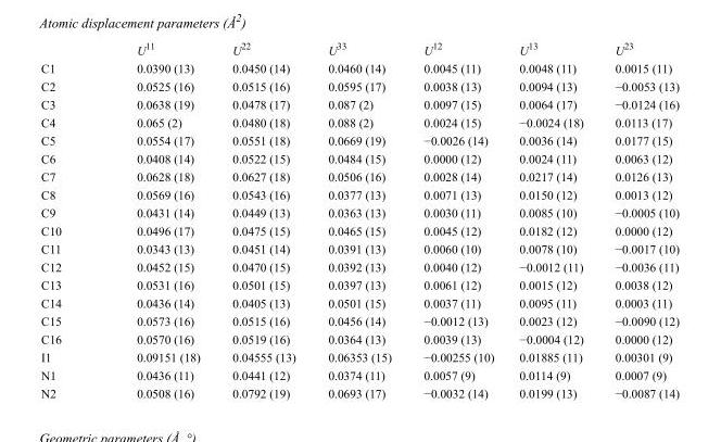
<table><thead><tr><td></td><td>U<sup>11</sup></td><td>U<sup>22</sup></td><td>U<sup>33</sup></td><td>U<sup>12</sup></td><td>U<sup>13</sup></td><td>U<sup>23</sup></td></tr></thead><tbody><tr><td>C1</td><td>0.0390 (13)</td><td>0.0450 (14)</td><td>0.0460 (14)</td><td>0.0045 (11)</td><td>0.0048 (11)</td><td>0.0015 (11)</td></tr><tr><td>C2</td><td>0.0525 (16)</td><td>0.0515 (16)</td><td>0.0595 (17)</td><td>0.0038 (13)</td><td>0.0094 (13)</td><td>−0.0053 (13)</td></tr><tr><td>C3</td><td>0.0638 (19)</td><td>0.0478 (17)</td><td>0.087 (2)</td><td>0.0097 (15)</td><td>0.0064 (17)</td><td>−0.0124 (16)</td></tr><tr><td>C4</td><td>0.065 (2)</td><td>0.0480 (18)</td><td>0.088 (2)</td><td>0.0024 (15)</td><td>−0.0024 (18)</td><td>0.0113 (17)</td></tr><tr><td>C5</td><td>0.0554 (17)</td><td>0.0551 (18)</td><td>0.0669 (19)</td><td>−0.0026 (14)</td><td>0.0036 (14)</td><td>0.0177 (15)</td></tr><tr><td>C6</td><td>0.0408 (14)</td><td>0.0522 (15)</td><td>0.0484 (15)</td><td>0.0000 (12)</td><td>0.0024 (11)</td><td>0.0063 (12)</td></tr><tr><td>C7</td><td>0.0628 (18)</td><td>0.0627 (18)</td><td>0.0506 (16)</td><td>0.0028 (14)</td><td>0.0217 (14)</td><td>0.0126 (13)</td></tr><tr><td>C8</td><td>0.0569 (16)</td><td>0.0543 (16)</td><td>0.0377 (13)</td><td>0.0071 (13)</td><td>0.0150 (12)</td><td>0.0013 (12)</td></tr><tr><td>C9</td><td>0.0431 (14)</td><td>0.0449 (13)</td><td>0.0363 (13)</td><td>0.0030 (11)</td><td>0.0085 (10)</td><td>−0.0005 (10)</td></tr><tr><td>C10</td><td>0.0496 (17)</td><td>0.0475 (15)</td><td>0.0465 (15)</td><td>0.0045 (12)</td><td>0.0182 (12)</td><td>0.0000 (12)</td></tr><tr><td>C11</td><td>0.0343 (13)</td><td>0.0451 (14)</td><td>0.0391 (13)</td><td>0.0060 (10)</td><td>0.0078 (10)</td><td>−0.0017 (10)</td></tr><tr><td>C12</td><td>0.0452 (15)</td><td>0.0470 (15)</td><td>0.0392 (13)</td><td>0.0040 (12)</td><td>−0.0012 (11)</td><td>−0.0036 (11)</td></tr><tr><td>C13</td><td>0.0531 (16)</td><td>0.0501 (15)</td><td>0.0397 (13)</td><td>0.0061 (12)</td><td>0.0015 (12)</td><td>0.0038 (12)</td></tr><tr><td>C14</td><td>0.0436 (14)</td><td>0.0405 (13)</td><td>0.0501 (15)</td><td>0.0037 (11)</td><td>0.0095 (11)</td><td>0.0003 (11)</td></tr><tr><td>C15</td><td>0.0573 (16)</td><td>0.0515 (16)</td><td>0.0456 (14)</td><td>−0.0012 (13)</td><td>0.0023 (12)</td><td>−0.0090 (12)</td></tr><tr><td>C16</td><td>0.0570 (16)</td><td>0.0519 (16)</td><td>0.0364 (13)</td><td>0.0039 (13)</td><td>−0.0004 (12)</td><td>0.0000 (12)</td></tr><tr><td>I1</td><td>0.09151 (18)</td><td>0.04555 (13)</td><td>0.06353 (15)</td><td>−0.00255 (10)</td><td>0.01885 (11)</td><td>0.00301 (9)</td></tr><tr><td>N1</td><td>0.0436 (11)</td><td>0.0441 (12)</td><td>0.0374 (11)</td><td>0.0057 (9)</td><td>0.0114 (9)</td><td>0.0007 (9)</td></tr><tr><td>N2</td><td>0.0508 (16)</td><td>0.0792 (19)</td><td>0.0693 (17)</td><td>−0.0032 (14)</td><td>0.0199 (13)</td><td>−0.0087 (14)</td></tr></tbody></table>